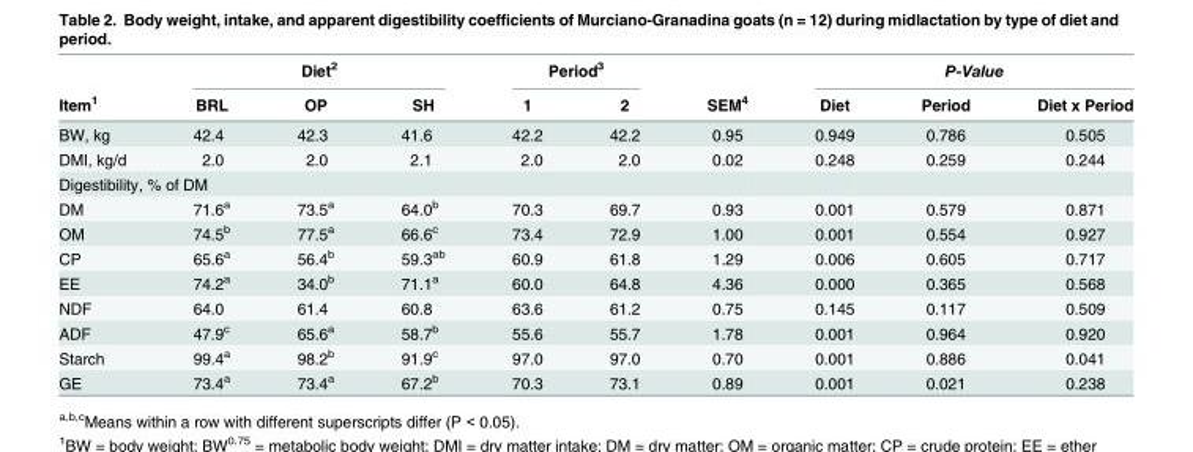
<table><thead><tr><td rowspan="2">Item<sup>1</sup></td><td colspan="3">Diet<sup>2</sup></td><td colspan="2">Period<sup>3</sup></td><td rowspan="2">SEM<sup>4</sup></td><td colspan="3">P-Value</td></tr><tr><td>BRL</td><td>OP</td><td>SH</td><td>1</td><td>2</td><td>Diet</td><td>Period</td><td>Diet x Period</td></tr></thead><tbody><tr><td>BW, kg</td><td>42.4</td><td>42.3</td><td>41.6</td><td>42.2</td><td>42.2</td><td>0.95</td><td>0.949</td><td>0.786</td><td>0.505</td></tr><tr><td>DMI, kg/d</td><td>2.0</td><td>2.0</td><td>2.1</td><td>2.0</td><td>2.0</td><td>0.02</td><td>0.248</td><td>0.259</td><td>0.244</td></tr><tr><td colspan="10">Digestibility, % of DM</td></tr><tr><td>DM</td><td>71.6<sup>a</sup></td><td>73.5<sup>a</sup></td><td>64.0<sup>b</sup></td><td>70.3</td><td>69.7</td><td>0.93</td><td>0.001</td><td>0.579</td><td>0.871</td></tr><tr><td>OM</td><td>74.5<sup>b</sup></td><td>77.5<sup>a</sup></td><td>66.6<sup>c</sup></td><td>73.4</td><td>72.9</td><td>1.00</td><td>0.001</td><td>0.554</td><td>0.927</td></tr><tr><td>CP</td><td>65.6<sup>a</sup></td><td>56.4<sup>b</sup></td><td>59.3<sup>ab</sup></td><td>60.9</td><td>61.8</td><td>1.29</td><td>0.006</td><td>0.605</td><td>0.717</td></tr><tr><td>EE</td><td>74.2<sup>a</sup></td><td>34.0<sup>b</sup></td><td>71.1<sup>a</sup></td><td>60.0</td><td>64.8</td><td>4.36</td><td>0.000</td><td>0.365</td><td>0.568</td></tr><tr><td>NDF</td><td>64.0</td><td>61.4</td><td>60.8</td><td>63.6</td><td>61.2</td><td>0.75</td><td>0.145</td><td>0.117</td><td>0.509</td></tr><tr><td>ADF</td><td>47.9<sup>c</sup></td><td>65.6<sup>a</sup></td><td>58.7<sup>b</sup></td><td>55.6</td><td>55.7</td><td>1.78</td><td>0.001</td><td>0.964</td><td>0.920</td></tr><tr><td>Starch</td><td>99.4<sup>a</sup></td><td>98.2<sup>b</sup></td><td>91.9<sup>c</sup></td><td>97.0</td><td>97.0</td><td>0.70</td><td>0.001</td><td>0.886</td><td>0.041</td></tr><tr><td>GE</td><td>73.4<sup>a</sup></td><td>73.4<sup>a</sup></td><td>67.2<sup>b</sup></td><td>70.3</td><td>73.1</td><td>0.89</td><td>0.001</td><td>0.021</td><td>0.238</td></tr></tbody></table>